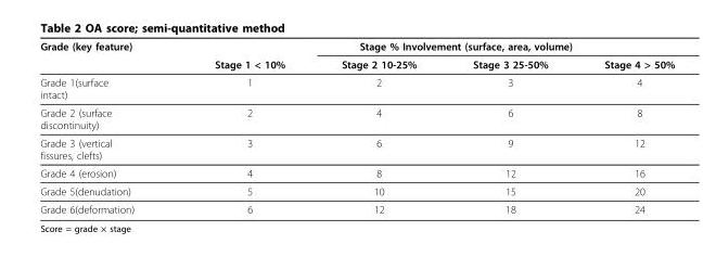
<table><thead><tr><td rowspan="2">Grade (key feature)</td><td colspan="3">Stage % Involvement (surface, area, volume)</td><td rowspan="2">Stage 4 &gt; 50%</td></tr><tr><td>Stage 1 &lt; 10%</td><td>Stage 2 10-25%</td><td>Stage 3 25-50%</td></tr></thead><tbody><tr><td>Grade 1(surface intact)</td><td>1</td><td>2</td><td>3</td><td>4</td></tr><tr><td>Grade 2 (surface discontinuity)</td><td>2</td><td>4</td><td>6</td><td>8</td></tr><tr><td>Grade 3 (vertical fissures, clefts)</td><td>3</td><td>6</td><td>9</td><td>12</td></tr><tr><td>Grade 4 (erosion)</td><td>4</td><td>8</td><td>12</td><td>16</td></tr><tr><td>Grade 5(denudation)</td><td>5</td><td>10</td><td>15</td><td>20</td></tr><tr><td>Grade 6(deformation)</td><td>6</td><td>12</td><td>18</td><td>24</td></tr></tbody></table>